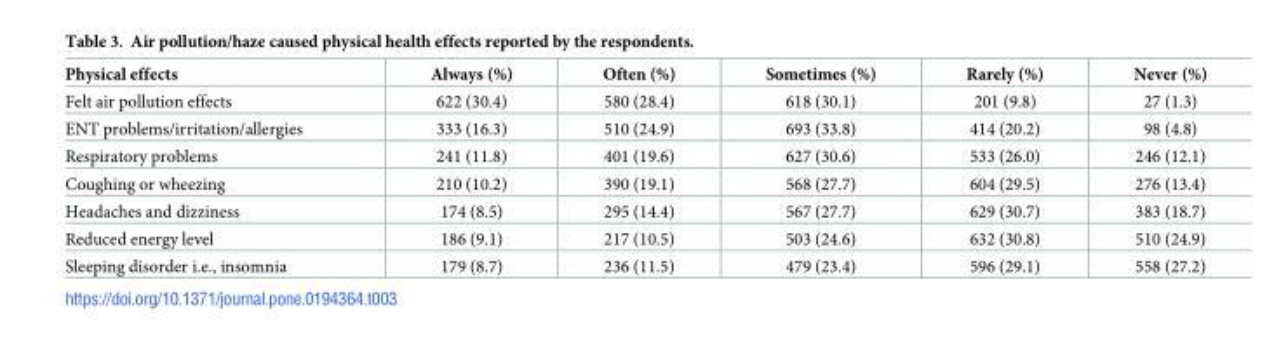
<table><thead><tr><td>Physical effects</td><td>Always (%)</td><td>Often (%)</td><td>Sometimes (%)</td><td>Rarely (%)</td><td>Never (%)</td></tr></thead><tbody><tr><td>Felt air pollution effects</td><td>622 (30.4)</td><td>580 (28.4)</td><td>618 (30.1)</td><td>201 (9.8)</td><td>27 (1.3)</td></tr><tr><td>ENT problems/irritation/allergies</td><td>333 (16.3)</td><td>510 (24.9)</td><td>693 (33.8)</td><td>414 (20.2)</td><td>98 (4.8)</td></tr><tr><td>Respiratory problems</td><td>241 (11.8)</td><td>401 (19.6)</td><td>627 (30.6)</td><td>533 (26.0)</td><td>246 (12.1)</td></tr><tr><td>Coughing or wheezing</td><td>210 (10.2)</td><td>390 (19.1)</td><td>568 (27.7)</td><td>604 (29.5)</td><td>276 (13.4)</td></tr><tr><td>Headaches and dizziness</td><td>174 (8.5)</td><td>295 (14.4)</td><td>567 (27.7)</td><td>629 (30.7)</td><td>383 (18.7)</td></tr><tr><td>Reduced energy level</td><td>186 (9.1)</td><td>217 (10.5)</td><td>503 (24.6)</td><td>632 (30.8)</td><td>510 (24.9)</td></tr><tr><td>Sleeping disorder i.e., insomnia</td><td>179 (8.7)</td><td>236 (11.5)</td><td>479 (23.4)</td><td>596 (29.1)</td><td>558 (27.2)</td></tr></tbody></table>